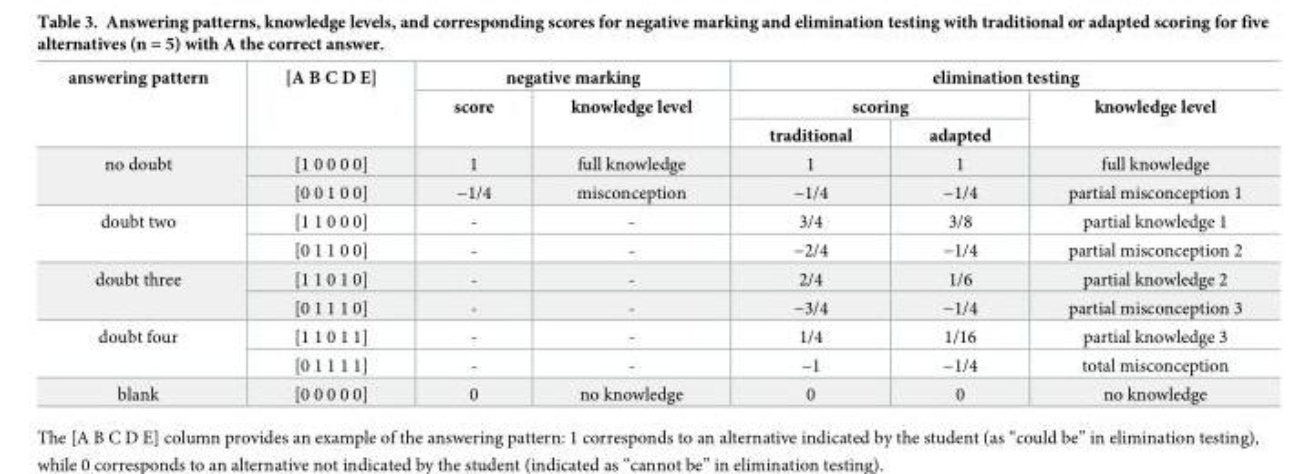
<table><thead><tr><td rowspan="3">answering pattern</td><td rowspan="3">[A B C D E]</td><td colspan="2">negative marking</td><td colspan="3">elimination testing</td></tr><tr><td rowspan="2">score</td><td rowspan="2">knowledge level</td><td colspan="2">scoring</td><td rowspan="2">knowledge level</td></tr><tr><td>traditional</td><td>adapted</td></tr></thead><tbody><tr><td rowspan="2">no doubt</td><td>[1 0 0 0 0]</td><td>1</td><td>full knowledge</td><td>1</td><td>1</td><td>full knowledge</td></tr><tr><td>[0 0 1 0 0]</td><td>−1/4</td><td>misconception</td><td>−1/4</td><td>−1/4</td><td>partial misconception 1</td></tr><tr><td rowspan="2">doubt two</td><td>[1 1 0 0 0]</td><td>-</td><td>-</td><td>3/4</td><td>3/8</td><td>partial knowledge 1</td></tr><tr><td>[0 1 1 0 0]</td><td>-</td><td>-</td><td>−2/4</td><td>−1/4</td><td>partial misconception 2</td></tr><tr><td rowspan="2">doubt three</td><td>[1 1 0 1 0]</td><td>-</td><td>-</td><td>2/4</td><td>1/6</td><td>partial knowledge 2</td></tr><tr><td>[0 1 1 1 0]</td><td>-</td><td>-</td><td>−3/4</td><td>−1/4</td><td>partial misconception 3</td></tr><tr><td rowspan="2">doubt four</td><td>[1 1 0 1 1]</td><td>-</td><td>-</td><td>1/4</td><td>1/16</td><td>partial knowledge 3</td></tr><tr><td>[0 1 1 1 1]</td><td>-</td><td>-</td><td>−1</td><td>−1/4</td><td>total misconception</td></tr><tr><td>blank</td><td>[0 0 0 0 0]</td><td>0</td><td>no knowledge</td><td>0</td><td>0</td><td>no knowledge</td></tr></tbody></table>